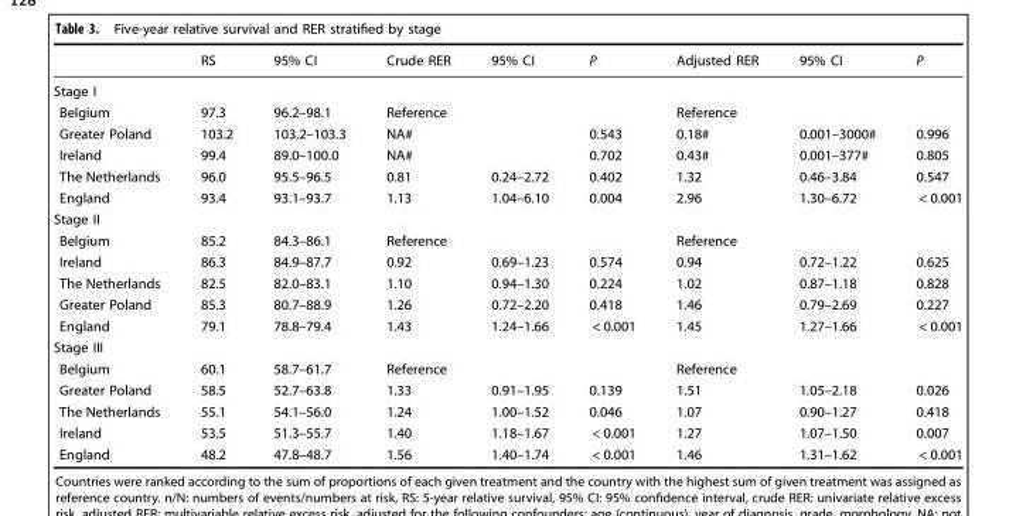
<table><thead><tr><td></td><td>RS</td><td>95% CI</td><td>Crude RER</td><td>95% CI</td><td>P</td><td>Adjusted RER</td><td>95% CI</td><td>P</td></tr></thead><tbody><tr><td colspan="9">Stage I</td></tr><tr><td>Belgium</td><td>97.3</td><td>96.2–98.1</td><td>Reference</td><td></td><td></td><td>Reference</td><td></td><td></td></tr><tr><td>Greater Poland</td><td>103.2</td><td>103.2–103.3</td><td>NA#</td><td></td><td>0.543</td><td>0.18#</td><td>0.001–3000#</td><td>0.996</td></tr><tr><td>Ireland</td><td>99.4</td><td>89.0–100.0</td><td>NA#</td><td></td><td>0.702</td><td>0.43#</td><td>0.001–377#</td><td>0.805</td></tr><tr><td>The Netherlands</td><td>96.0</td><td>95.5–96.5</td><td>0.81</td><td>0.24–2.72</td><td>0.402</td><td>1.32</td><td>0.46–3.84</td><td>0.547</td></tr><tr><td>England</td><td>93.4</td><td>93.1–93.7</td><td>1.13</td><td>1.04–6.10</td><td>0.004</td><td>2.96</td><td>1.30–6.72</td><td>&lt; 0.001</td></tr><tr><td colspan="9">Stage II</td></tr><tr><td>Belgium</td><td>85.2</td><td>84.3–86.1</td><td>Reference</td><td></td><td></td><td>Reference</td><td></td><td></td></tr><tr><td>Ireland</td><td>86.3</td><td>84.9–87.7</td><td>0.92</td><td>0.69–1.23</td><td>0.574</td><td>0.94</td><td>0.72–1.22</td><td>0.625</td></tr><tr><td>The Netherlands</td><td>82.5</td><td>82.0–83.1</td><td>1.10</td><td>0.94–1.30</td><td>0.224</td><td>1.02</td><td>0.87–1.18</td><td>0.828</td></tr><tr><td>Greater Poland</td><td>85.3</td><td>80.7–88.9</td><td>1.26</td><td>0.72–2.20</td><td>0.418</td><td>1.46</td><td>0.79–2.69</td><td>0.227</td></tr><tr><td>England</td><td>79.1</td><td>78.8–79.4</td><td>1.43</td><td>1.24–1.66</td><td>&lt; 0.001</td><td>1.45</td><td>1.27–1.66</td><td>&lt; 0.001</td></tr><tr><td colspan="9">Stage III</td></tr><tr><td>Belgium</td><td>60.1</td><td>58.7–61.7</td><td>Reference</td><td></td><td></td><td>Reference</td><td></td><td></td></tr><tr><td>Greater Poland</td><td>58.5</td><td>52.7–63.8</td><td>1.33</td><td>0.91–1.95</td><td>0.139</td><td>1.51</td><td>1.05–2.18</td><td>0.026</td></tr><tr><td>The Netherlands</td><td>55.1</td><td>54.1–56.0</td><td>1.24</td><td>1.00–1.52</td><td>0.046</td><td>1.07</td><td>0.90–1.27</td><td>0.418</td></tr><tr><td>Ireland</td><td>53.5</td><td>51.3–55.7</td><td>1.40</td><td>1.18–1.67</td><td>&lt; 0.001</td><td>1.27</td><td>1.07–1.50</td><td>0.007</td></tr><tr><td>England</td><td>48.2</td><td>47.8–48.7</td><td>1.56</td><td>1.40–1.74</td><td>&lt; 0.001</td><td>1.46</td><td>1.31–1.62</td><td>&lt; 0.001</td></tr></tbody></table>